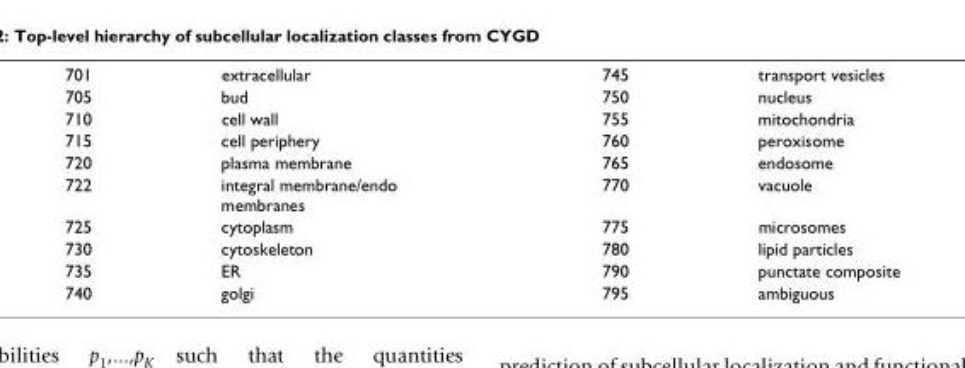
<table><tbody><tr><td>701</td><td>extracellular</td><td>745</td><td>transport vesicles</td></tr><tr><td>705</td><td>bud</td><td>750</td><td>nucleus</td></tr><tr><td>710</td><td>cell wall</td><td>755</td><td>mitochondria</td></tr><tr><td>715</td><td>cell periphery</td><td>760</td><td>peroxisome</td></tr><tr><td>720</td><td>plasma membrane</td><td>765</td><td>endosome</td></tr><tr><td>722</td><td>integral membrane/endo membranes</td><td>770</td><td>vacuole</td></tr><tr><td>725</td><td>cytoplasm</td><td>775</td><td>microsomes</td></tr><tr><td>730</td><td>cytoskeleton</td><td>780</td><td>lipid particles</td></tr><tr><td>735</td><td>ER</td><td>790</td><td>punctate composite</td></tr><tr><td>740</td><td>golgi</td><td>795</td><td>ambiguous</td></tr></tbody></table>